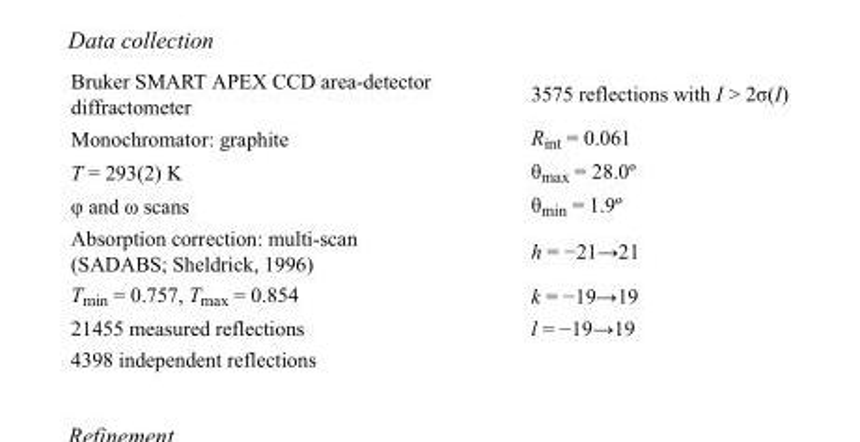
<table><tbody><tr><td>Bruker SMART APEX CCD area-detector diffractometer</td><td>3575 reflections with I &gt; 2σ(I)</td></tr><tr><td>Monochromator: graphite</td><td>R<sub>int</sub> = 0.061</td></tr><tr><td>T = 293(2) K</td><td>θ<sub>max</sub> = 28.0º</td></tr><tr><td>φ and ω scans</td><td>θ<sub>min</sub> = 1.9º</td></tr><tr><td>Absorption correction: multi-scan (SADABS; Sheldrick, 1996)</td><td>h = −21→21</td></tr><tr><td>T<sub>min</sub> = 0.757, T<sub>max</sub> = 0.854</td><td>k = −19→19</td></tr><tr><td>21455 measured reflections</td><td>l = −19→19</td></tr><tr><td>4398 independent reflections</td><td></td></tr></tbody></table>